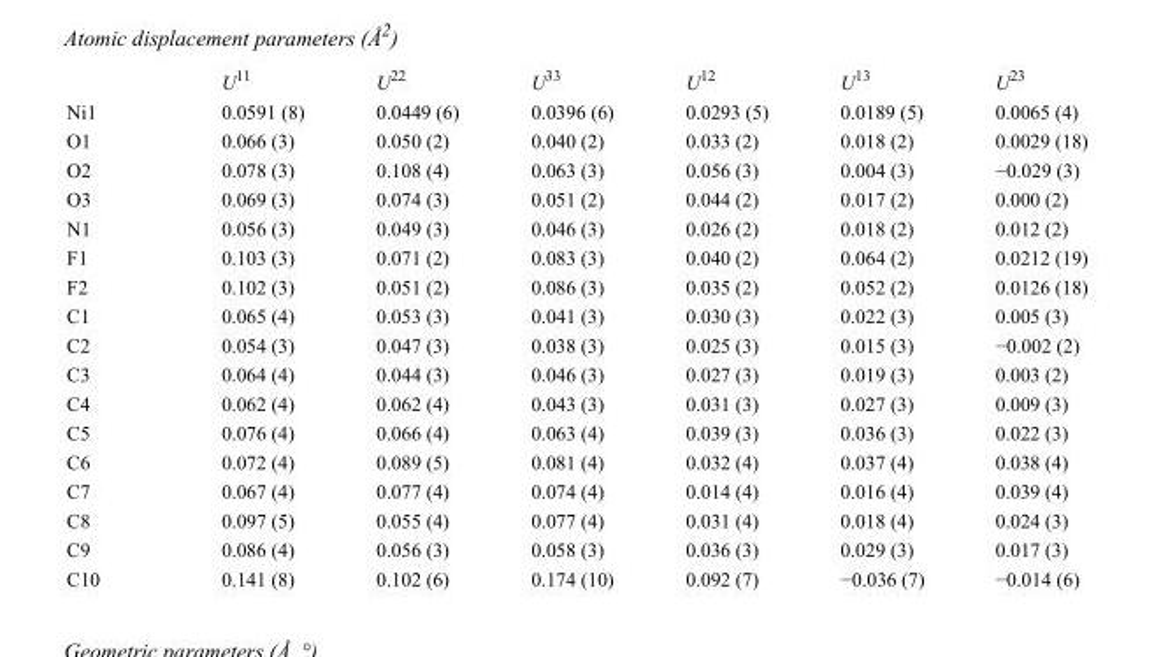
<table><thead><tr><td></td><td>U<sup>11</sup></td><td>U<sup>22</sup></td><td>U<sup>33</sup></td><td>U<sup>12</sup></td><td>U<sup>13</sup></td><td>U<sup>23</sup></td></tr></thead><tbody><tr><td>Ni1</td><td>0.0591 (8)</td><td>0.0449 (6)</td><td>0.0396 (6)</td><td>0.0293 (5)</td><td>0.0189 (5)</td><td>0.0065 (4)</td></tr><tr><td>O1</td><td>0.066 (3)</td><td>0.050 (2)</td><td>0.040 (2)</td><td>0.033 (2)</td><td>0.018 (2)</td><td>0.0029 (18)</td></tr><tr><td>O2</td><td>0.078 (3)</td><td>0.108 (4)</td><td>0.063 (3)</td><td>0.056 (3)</td><td>0.004 (3)</td><td>−0.029 (3)</td></tr><tr><td>O3</td><td>0.069 (3)</td><td>0.074 (3)</td><td>0.051 (2)</td><td>0.044 (2)</td><td>0.017 (2)</td><td>0.000 (2)</td></tr><tr><td>N1</td><td>0.056 (3)</td><td>0.049 (3)</td><td>0.046 (3)</td><td>0.026 (2)</td><td>0.018 (2)</td><td>0.012 (2)</td></tr><tr><td>F1</td><td>0.103 (3)</td><td>0.071 (2)</td><td>0.083 (3)</td><td>0.040 (2)</td><td>0.064 (2)</td><td>0.0212 (19)</td></tr><tr><td>F2</td><td>0.102 (3)</td><td>0.051 (2)</td><td>0.086 (3)</td><td>0.035 (2)</td><td>0.052 (2)</td><td>0.0126 (18)</td></tr><tr><td>C1</td><td>0.065 (4)</td><td>0.053 (3)</td><td>0.041 (3)</td><td>0.030 (3)</td><td>0.022 (3)</td><td>0.005 (3)</td></tr><tr><td>C2</td><td>0.054 (3)</td><td>0.047 (3)</td><td>0.038 (3)</td><td>0.025 (3)</td><td>0.015 (3)</td><td>−0.002 (2)</td></tr><tr><td>C3</td><td>0.064 (4)</td><td>0.044 (3)</td><td>0.046 (3)</td><td>0.027 (3)</td><td>0.019 (3)</td><td>0.003 (2)</td></tr><tr><td>C4</td><td>0.062 (4)</td><td>0.062 (4)</td><td>0.043 (3)</td><td>0.031 (3)</td><td>0.027 (3)</td><td>0.009 (3)</td></tr><tr><td>C5</td><td>0.076 (4)</td><td>0.066 (4)</td><td>0.063 (4)</td><td>0.039 (3)</td><td>0.036 (3)</td><td>0.022 (3)</td></tr><tr><td>C6</td><td>0.072 (4)</td><td>0.089 (5)</td><td>0.081 (4)</td><td>0.032 (4)</td><td>0.037 (4)</td><td>0.038 (4)</td></tr><tr><td>C7</td><td>0.067 (4)</td><td>0.077 (4)</td><td>0.074 (4)</td><td>0.014 (4)</td><td>0.016 (4)</td><td>0.039 (4)</td></tr><tr><td>C8</td><td>0.097 (5)</td><td>0.055 (4)</td><td>0.077 (4)</td><td>0.031 (4)</td><td>0.018 (4)</td><td>0.024 (3)</td></tr><tr><td>C9</td><td>0.086 (4)</td><td>0.056 (3)</td><td>0.058 (3)</td><td>0.036 (3)</td><td>0.029 (3)</td><td>0.017 (3)</td></tr><tr><td>C10</td><td>0.141 (8)</td><td>0.102 (6)</td><td>0.174 (10)</td><td>0.092 (7)</td><td>−0.036 (7)</td><td>−0.014 (6)</td></tr></tbody></table>